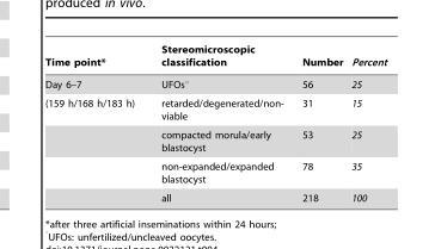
<table><thead><tr><td>Time point*</td><td>Stereomicroscopic classification</td><td>Number</td><td>Percent</td></tr></thead><tbody><tr><td>Day 6–7</td><td>UFOs°</td><td>56</td><td>25</td></tr><tr><td rowspan="4">(159 h/168 h/183 h)</td><td>retarded/degenerated/non- viable</td><td>31</td><td>15</td></tr><tr><td>compacted morula/early blastocyst</td><td>53</td><td>25</td></tr><tr><td>non-expanded/expanded blastocyst</td><td>78</td><td>35</td></tr><tr><td>all</td><td>218</td><td>100</td></tr></tbody></table>